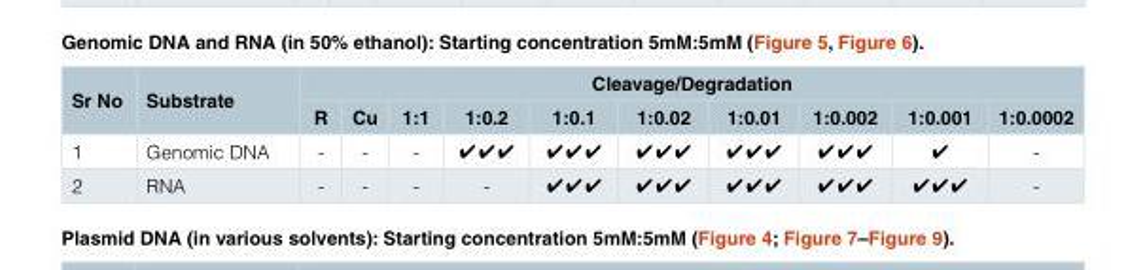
<table><thead><tr><td rowspan="2">Sr No</td><td rowspan="2">Substrate</td><td colspan="10">Cleavage/Degradation</td></tr><tr><td>R</td><td>Cu</td><td>1:1</td><td>1:0.2</td><td>1:0.1</td><td>1:0.02</td><td>1:0.01</td><td>1:0.002</td><td>1:0.001</td><td>1:0.0002</td></tr></thead><tbody><tr><td>1</td><td>Genomic DNA</td><td>-</td><td>-</td><td>-</td><td>✔✔✔</td><td>✔✔✔</td><td>✔✔✔</td><td>✔✔✔</td><td>✔✔✔</td><td>✔</td><td>-</td></tr><tr><td>2</td><td>RNA</td><td>-</td><td>-</td><td>-</td><td>-</td><td>✔✔✔</td><td>✔✔✔</td><td>✔✔✔</td><td>✔✔✔</td><td>✔✔✔</td><td>-</td></tr></tbody></table>